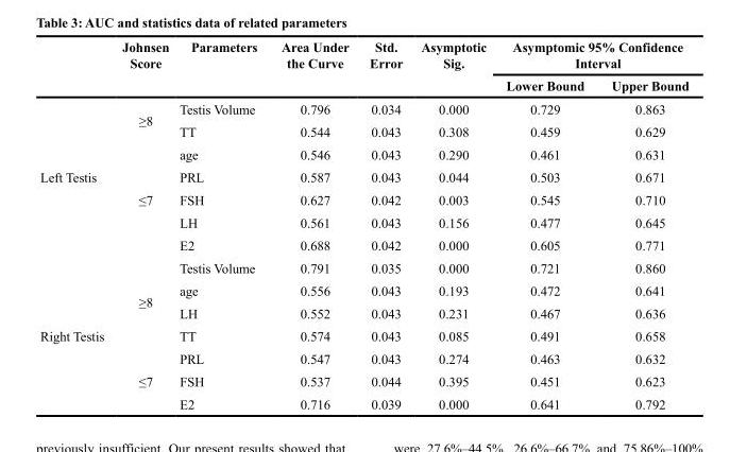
<table><thead><tr><td rowspan="2"></td><td rowspan="2">Johnsen Score</td><td rowspan="2">Parameters</td><td rowspan="2">Area Under the Curve</td><td rowspan="2">Std. Error</td><td rowspan="2">Asymptotic Sig.</td><td colspan="2">Asymptomic 95% Confidence Interval</td></tr><tr><td>Lower Bound</td><td>Upper Bound</td></tr></thead><tbody><tr><td rowspan="7">Left Testis</td><td rowspan="2">≥8</td><td>Testis Volume</td><td>0.796</td><td>0.034</td><td>0.000</td><td>0.729</td><td>0.863</td></tr><tr><td>TT</td><td>0.544</td><td>0.043</td><td>0.308</td><td>0.459</td><td>0.629</td></tr><tr><td rowspan="5">≤7</td><td>age</td><td>0.546</td><td>0.043</td><td>0.290</td><td>0.461</td><td>0.631</td></tr><tr><td>PRL</td><td>0.587</td><td>0.043</td><td>0.044</td><td>0.503</td><td>0.671</td></tr><tr><td>FSH</td><td>0.627</td><td>0.042</td><td>0.003</td><td>0.545</td><td>0.710</td></tr><tr><td>LH</td><td>0.561</td><td>0.043</td><td>0.156</td><td>0.477</td><td>0.645</td></tr><tr><td>E2</td><td>0.688</td><td>0.042</td><td>0.000</td><td>0.605</td><td>0.771</td></tr><tr><td rowspan="7">Right Testis</td><td rowspan="4">≥8</td><td>Testis Volume</td><td>0.791</td><td>0.035</td><td>0.000</td><td>0.721</td><td>0.860</td></tr><tr><td>age</td><td>0.556</td><td>0.043</td><td>0.193</td><td>0.472</td><td>0.641</td></tr><tr><td>LH</td><td>0.552</td><td>0.043</td><td>0.231</td><td>0.467</td><td>0.636</td></tr><tr><td>TT</td><td>0.574</td><td>0.043</td><td>0.085</td><td>0.491</td><td>0.658</td></tr><tr><td rowspan="3">≤7</td><td>PRL</td><td>0.547</td><td>0.043</td><td>0.274</td><td>0.463</td><td>0.632</td></tr><tr><td>FSH</td><td>0.537</td><td>0.044</td><td>0.395</td><td>0.451</td><td>0.623</td></tr><tr><td>E2</td><td>0.716</td><td>0.039</td><td>0.000</td><td>0.641</td><td>0.792</td></tr></tbody></table>